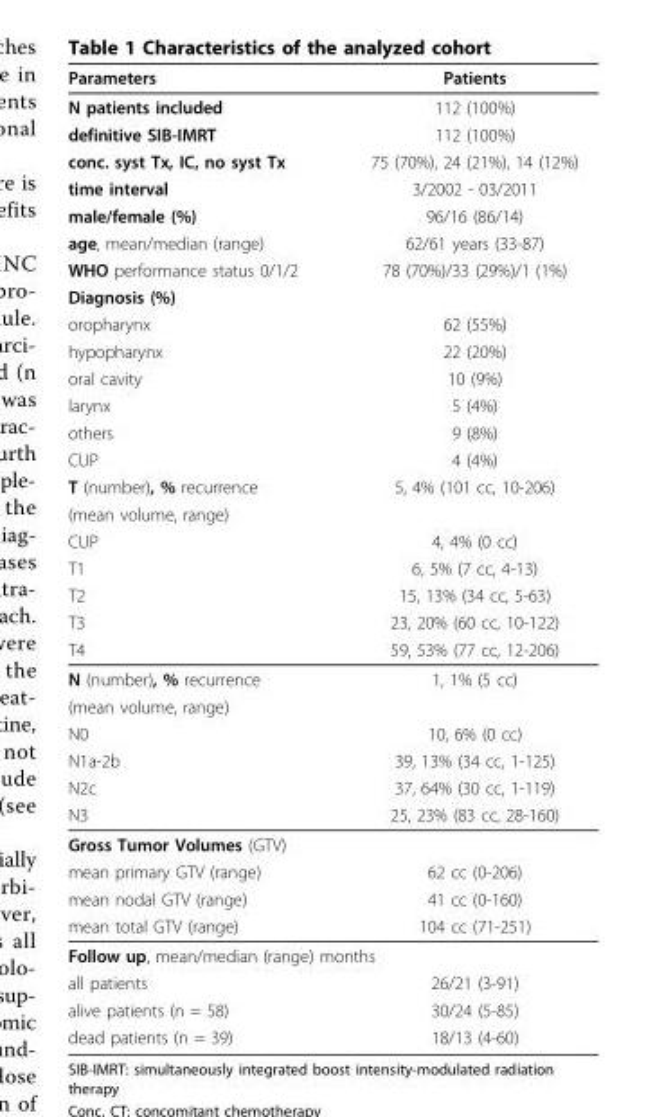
<table><thead><tr><td>Parameters</td><td>Patients</td></tr></thead><tbody><tr><td>N patients included</td><td>112 (100%)</td></tr><tr><td>definitive SIB-IMRT</td><td>112 (100%)</td></tr><tr><td>conc. syst Tx, IC, no syst Tx</td><td>75 (70%), 24 (21%), 14 (12%)</td></tr><tr><td>time interval</td><td>3/2002 - 03/2011</td></tr><tr><td>male/female (%)</td><td>96/16 (86/14)</td></tr><tr><td>age, mean/median (range)</td><td>62/61 years (33-87)</td></tr><tr><td>WHO performance status 0/1/2</td><td>78 (70%)/33 (29%)/1 (1%)</td></tr><tr><td colspan="2">Diagnosis (%)</td></tr><tr><td>oropharynx</td><td>62 (55%)</td></tr><tr><td>hypopharynx</td><td>22 (20%)</td></tr><tr><td>oral cavity</td><td>10 (9%)</td></tr><tr><td>larynx</td><td>5 (4%)</td></tr><tr><td>others</td><td>9 (8%)</td></tr><tr><td>CUP</td><td>4 (4%)</td></tr><tr><td>T (number), % recurrence</td><td>5, 4% (101 cc, 10-206)</td></tr><tr><td colspan="2">(mean volume, range)</td></tr><tr><td>CUP</td><td>4, 4% (0 cc)</td></tr><tr><td>T1</td><td>6, 5% (7 cc, 4-13)</td></tr><tr><td>T2</td><td>15, 13% (34 cc, 5-63)</td></tr><tr><td>T3</td><td>23, 20% (60 cc, 10-122)</td></tr><tr><td>T4</td><td>59, 53% (77 cc, 12-206)</td></tr><tr><td>N (number), % recurrence</td><td>1, 1% (5 cc)</td></tr><tr><td colspan="2">(mean volume, range)</td></tr><tr><td>N0</td><td>10, 6% (0 cc)</td></tr><tr><td>N1a-2b</td><td>39, 13% (34 cc, 1-125)</td></tr><tr><td>N2c</td><td>37, 64% (30 cc, 1-119)</td></tr><tr><td>N3</td><td>25, 23% (83 cc, 28-160)</td></tr><tr><td colspan="2">Gross Tumor Volumes (GTV)</td></tr><tr><td>mean primary GTV (range)</td><td>62 cc (0-206)</td></tr><tr><td>mean nodal GTV (range)</td><td>41 cc (0-160)</td></tr><tr><td>mean total GTV (range)</td><td>104 cc (71-251)</td></tr><tr><td colspan="2">Follow up, mean/median (range) months</td></tr><tr><td>all patients</td><td>26/21 (3-91)</td></tr><tr><td>alive patients (n = 58)</td><td>30/24 (5-85)</td></tr><tr><td>dead patients (n = 39)</td><td>18/13 (4-60)</td></tr></tbody></table>